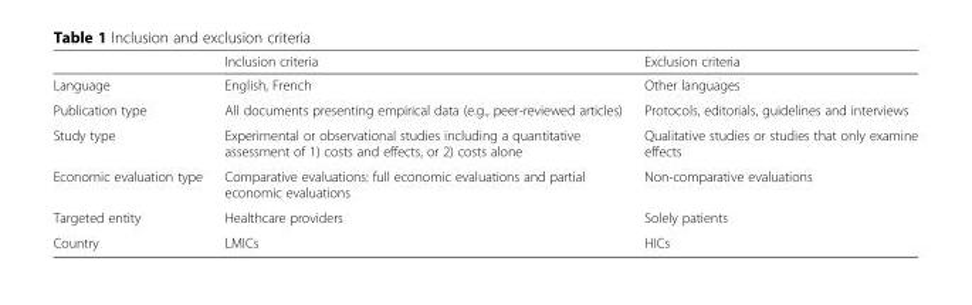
<table><thead><tr><td></td><td>Inclusion criteria</td><td>Exclusion criteria</td></tr></thead><tbody><tr><td>Language</td><td>English, French</td><td>Other languages</td></tr><tr><td>Publication type</td><td>All documents presenting empirical data (e.g., peer-reviewed articles)</td><td>Protocols, editorials, guidelines and interviews</td></tr><tr><td>Study type</td><td>Experimental or observational studies including a quantitative assessment of 1) costs and effects, or 2) costs alone</td><td>Qualitative studies or studies that only examine effects</td></tr><tr><td>Economic evaluation type</td><td>Comparative evaluations: full economic evaluations and partial economic evaluations</td><td>Non-comparative evaluations</td></tr><tr><td>Targeted entity</td><td>Healthcare providers</td><td>Solely patients</td></tr><tr><td>Country</td><td>LMICs</td><td>HICs</td></tr></tbody></table>